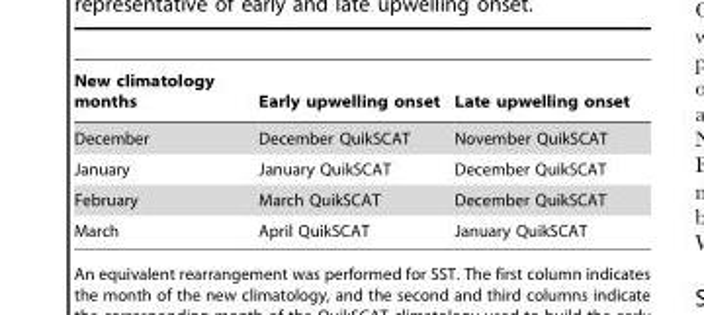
<table><thead><tr><td>New climatology months</td><td>Early upwelling onset</td><td>Late upwelling onset</td></tr></thead><tbody><tr><td>December</td><td>December QuikSCAT</td><td>November QuikSCAT</td></tr><tr><td>January</td><td>January QuikSCAT</td><td>December QuikSCAT</td></tr><tr><td>February</td><td>March QuikSCAT</td><td>December QuikSCAT</td></tr><tr><td>March</td><td>April QuikSCAT</td><td>January QuikSCAT</td></tr></tbody></table>